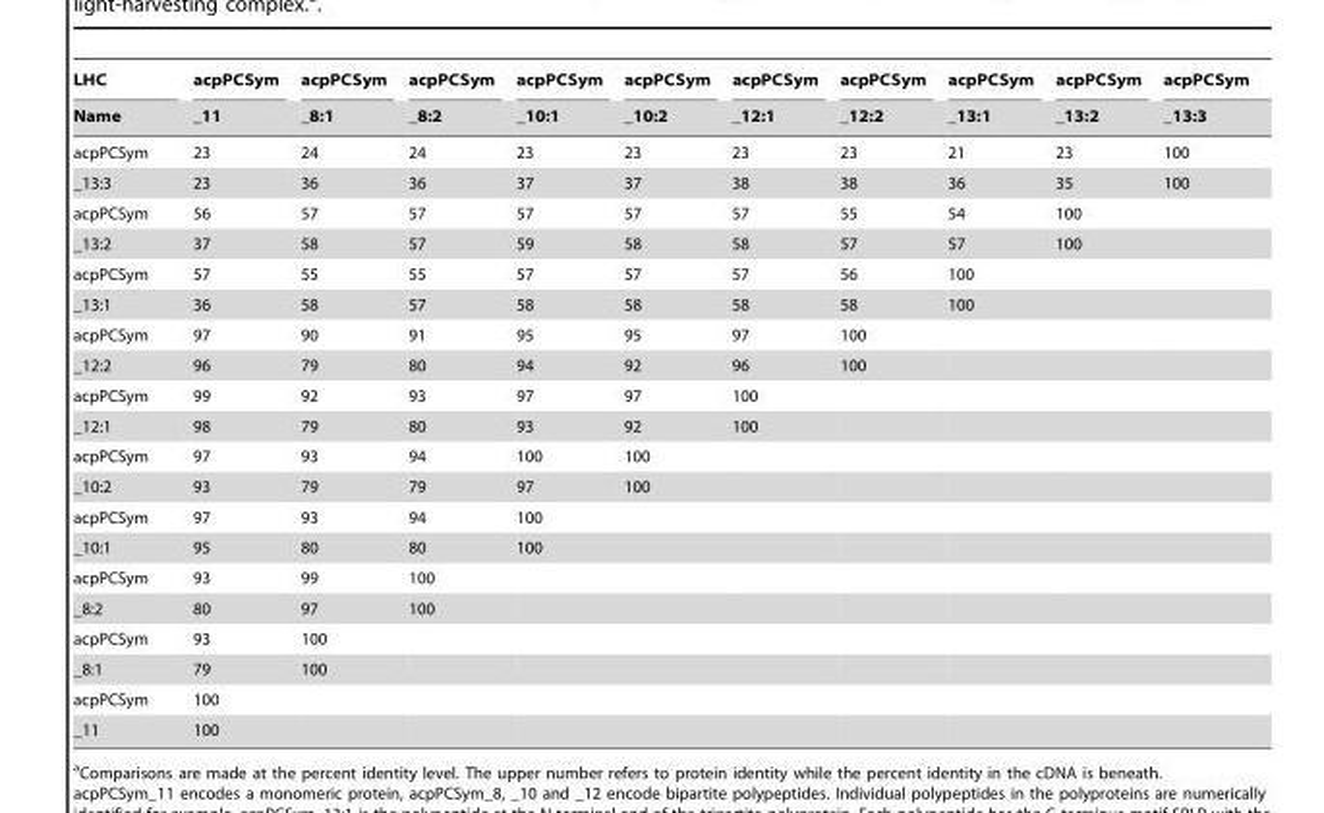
<table><thead><tr><td rowspan="2">LHC Name</td><td rowspan="2">acpPCSym _11</td><td rowspan="2">acpPCSym _8:1</td><td rowspan="2">acpPCSym _8:2</td><td rowspan="2">acpPCSym _10:1</td><td rowspan="2">acpPCSym _10:2</td><td rowspan="2">acpPCSym _12:1</td><td rowspan="2">acpPCSym _12:2</td><td rowspan="2">acpPCSym _13:1</td><td rowspan="2">acpPCSym _13:2</td><td rowspan="2">acpPCSym _13:3</td></tr><tr></tr></thead><tbody><tr><td>acpPCSym</td><td>23</td><td>24</td><td>24</td><td>23</td><td>23</td><td>23</td><td>23</td><td>21</td><td>23</td><td>100</td></tr><tr><td>_13:3</td><td>23</td><td>36</td><td>36</td><td>37</td><td>37</td><td>38</td><td>38</td><td>36</td><td>35</td><td>100</td></tr><tr><td>acpPCSym</td><td>56</td><td>57</td><td>57</td><td>57</td><td>57</td><td>57</td><td>55</td><td>54</td><td>100</td><td></td></tr><tr><td>_13:2</td><td>37</td><td>58</td><td>57</td><td>59</td><td>58</td><td>58</td><td>57</td><td>57</td><td>100</td><td></td></tr><tr><td>acpPCSym</td><td>57</td><td>55</td><td>55</td><td>57</td><td>57</td><td>57</td><td>56</td><td>100</td><td></td><td></td></tr><tr><td>_13:1</td><td>36</td><td>58</td><td>57</td><td>58</td><td>58</td><td>58</td><td>58</td><td>100</td><td></td><td></td></tr><tr><td>acpPCSym</td><td>97</td><td>90</td><td>91</td><td>95</td><td>95</td><td>97</td><td>100</td><td></td><td></td><td></td></tr><tr><td>_12:2</td><td>96</td><td>79</td><td>80</td><td>94</td><td>92</td><td>96</td><td>100</td><td></td><td></td><td></td></tr><tr><td>acpPCSym</td><td>99</td><td>92</td><td>93</td><td>97</td><td>97</td><td>100</td><td></td><td></td><td></td><td></td></tr><tr><td>_12:1</td><td>98</td><td>79</td><td>80</td><td>93</td><td>92</td><td>100</td><td></td><td></td><td></td><td></td></tr><tr><td>acpPCSym</td><td>97</td><td>93</td><td>94</td><td>100</td><td>100</td><td></td><td></td><td></td><td></td><td></td></tr><tr><td>_10:2</td><td>93</td><td>79</td><td>79</td><td>97</td><td>100</td><td></td><td></td><td></td><td></td><td></td></tr><tr><td>acpPCSym</td><td>97</td><td>93</td><td>94</td><td>100</td><td></td><td></td><td></td><td></td><td></td><td></td></tr><tr><td>_10:1</td><td>95</td><td>80</td><td>80</td><td>100</td><td></td><td></td><td></td><td></td><td></td><td></td></tr><tr><td>acpPCSym</td><td>93</td><td>99</td><td>100</td><td></td><td></td><td></td><td></td><td></td><td></td><td></td></tr><tr><td>_8:2</td><td>80</td><td>97</td><td>100</td><td></td><td></td><td></td><td></td><td></td><td></td><td></td></tr><tr><td>acpPCSym</td><td>93</td><td>100</td><td></td><td></td><td></td><td></td><td></td><td></td><td></td><td></td></tr><tr><td>_8:1</td><td>79</td><td>100</td><td></td><td></td><td></td><td></td><td></td><td></td><td></td><td></td></tr><tr><td>acpPCSym</td><td>100</td><td></td><td></td><td></td><td></td><td></td><td></td><td></td><td></td><td></td></tr><tr><td>_11</td><td>100</td><td></td><td></td><td></td><td></td><td></td><td></td><td></td><td></td><td></td></tr></tbody></table>